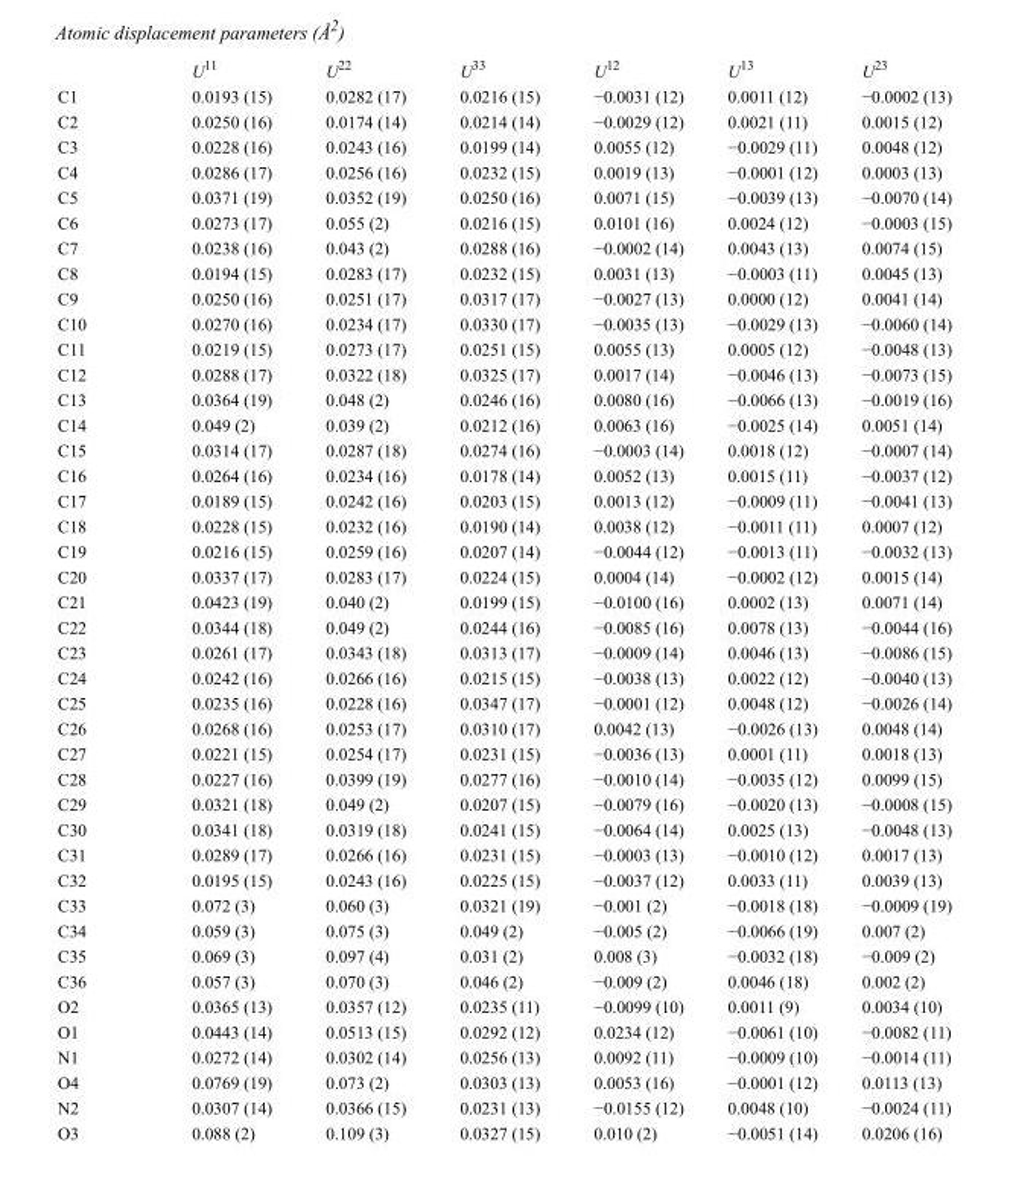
<table><thead><tr><td></td><td>U<sup>11</sup></td><td>U<sup>22</sup></td><td>U<sup>33</sup></td><td>U<sup>12</sup></td><td>U<sup>13</sup></td><td>U<sup>23</sup></td></tr></thead><tbody><tr><td>C1</td><td>0.0193 (15)</td><td>0.0282 (17)</td><td>0.0216 (15)</td><td>−0.0031 (12)</td><td>0.0011 (12)</td><td>−0.0002 (13)</td></tr><tr><td>C2</td><td>0.0250 (16)</td><td>0.0174 (14)</td><td>0.0214 (14)</td><td>−0.0029 (12)</td><td>0.0021 (11)</td><td>0.0015 (12)</td></tr><tr><td>C3</td><td>0.0228 (16)</td><td>0.0243 (16)</td><td>0.0199 (14)</td><td>0.0055 (12)</td><td>−0.0029 (11)</td><td>0.0048 (12)</td></tr><tr><td>C4</td><td>0.0286 (17)</td><td>0.0256 (16)</td><td>0.0232 (15)</td><td>0.0019 (13)</td><td>−0.0001 (12)</td><td>0.0003 (13)</td></tr><tr><td>C5</td><td>0.0371 (19)</td><td>0.0352 (19)</td><td>0.0250 (16)</td><td>0.0071 (15)</td><td>−0.0039 (13)</td><td>−0.0070 (14)</td></tr><tr><td>C6</td><td>0.0273 (17)</td><td>0.055 (2)</td><td>0.0216 (15)</td><td>0.0101 (16)</td><td>0.0024 (12)</td><td>−0.0003 (15)</td></tr><tr><td>C7</td><td>0.0238 (16)</td><td>0.043 (2)</td><td>0.0288 (16)</td><td>−0.0002 (14)</td><td>0.0043 (13)</td><td>0.0074 (15)</td></tr><tr><td>C8</td><td>0.0194 (15)</td><td>0.0283 (17)</td><td>0.0232 (15)</td><td>0.0031 (13)</td><td>−0.0003 (11)</td><td>0.0045 (13)</td></tr><tr><td>C9</td><td>0.0250 (16)</td><td>0.0251 (17)</td><td>0.0317 (17)</td><td>−0.0027 (13)</td><td>0.0000 (12)</td><td>0.0041 (14)</td></tr><tr><td>C10</td><td>0.0270 (16)</td><td>0.0234 (17)</td><td>0.0330 (17)</td><td>−0.0035 (13)</td><td>−0.0029 (13)</td><td>−0.0060 (14)</td></tr><tr><td>C11</td><td>0.0219 (15)</td><td>0.0273 (17)</td><td>0.0251 (15)</td><td>0.0055 (13)</td><td>0.0005 (12)</td><td>−0.0048 (13)</td></tr><tr><td>C12</td><td>0.0288 (17)</td><td>0.0322 (18)</td><td>0.0325 (17)</td><td>0.0017 (14)</td><td>−0.0046 (13)</td><td>−0.0073 (15)</td></tr><tr><td>C13</td><td>0.0364 (19)</td><td>0.048 (2)</td><td>0.0246 (16)</td><td>0.0080 (16)</td><td>−0.0066 (13)</td><td>−0.0019 (16)</td></tr><tr><td>C14</td><td>0.049 (2)</td><td>0.039 (2)</td><td>0.0212 (16)</td><td>0.0063 (16)</td><td>−0.0025 (14)</td><td>0.0051 (14)</td></tr><tr><td>C15</td><td>0.0314 (17)</td><td>0.0287 (18)</td><td>0.0274 (16)</td><td>−0.0003 (14)</td><td>0.0018 (12)</td><td>−0.0007 (14)</td></tr><tr><td>C16</td><td>0.0264 (16)</td><td>0.0234 (16)</td><td>0.0178 (14)</td><td>0.0052 (13)</td><td>0.0015 (11)</td><td>−0.0037 (12)</td></tr><tr><td>C17</td><td>0.0189 (15)</td><td>0.0242 (16)</td><td>0.0203 (15)</td><td>0.0013 (12)</td><td>−0.0009 (11)</td><td>−0.0041 (13)</td></tr><tr><td>C18</td><td>0.0228 (15)</td><td>0.0232 (16)</td><td>0.0190 (14)</td><td>0.0038 (12)</td><td>−0.0011 (11)</td><td>0.0007 (12)</td></tr><tr><td>C19</td><td>0.0216 (15)</td><td>0.0259 (16)</td><td>0.0207 (14)</td><td>−0.0044 (12)</td><td>−0.0013 (11)</td><td>−0.0032 (13)</td></tr><tr><td>C20</td><td>0.0337 (17)</td><td>0.0283 (17)</td><td>0.0224 (15)</td><td>0.0004 (14)</td><td>−0.0002 (12)</td><td>0.0015 (14)</td></tr><tr><td>C21</td><td>0.0423 (19)</td><td>0.040 (2)</td><td>0.0199 (15)</td><td>−0.0100 (16)</td><td>0.0002 (13)</td><td>0.0071 (14)</td></tr><tr><td>C22</td><td>0.0344 (18)</td><td>0.049 (2)</td><td>0.0244 (16)</td><td>−0.0085 (16)</td><td>0.0078 (13)</td><td>−0.0044 (16)</td></tr><tr><td>C23</td><td>0.0261 (17)</td><td>0.0343 (18)</td><td>0.0313 (17)</td><td>−0.0009 (14)</td><td>0.0046 (13)</td><td>−0.0086 (15)</td></tr><tr><td>C24</td><td>0.0242 (16)</td><td>0.0266 (16)</td><td>0.0215 (15)</td><td>−0.0038 (13)</td><td>0.0022 (12)</td><td>−0.0040 (13)</td></tr><tr><td>C25</td><td>0.0235 (16)</td><td>0.0228 (16)</td><td>0.0347 (17)</td><td>−0.0001 (12)</td><td>0.0048 (12)</td><td>−0.0026 (14)</td></tr><tr><td>C26</td><td>0.0268 (16)</td><td>0.0253 (17)</td><td>0.0310 (17)</td><td>0.0042 (13)</td><td>−0.0026 (13)</td><td>0.0048 (14)</td></tr><tr><td>C27</td><td>0.0221 (15)</td><td>0.0254 (17)</td><td>0.0231 (15)</td><td>−0.0036 (13)</td><td>0.0001 (11)</td><td>0.0018 (13)</td></tr><tr><td>C28</td><td>0.0227 (16)</td><td>0.0399 (19)</td><td>0.0277 (16)</td><td>−0.0010 (14)</td><td>−0.0035 (12)</td><td>0.0099 (15)</td></tr><tr><td>C29</td><td>0.0321 (18)</td><td>0.049 (2)</td><td>0.0207 (15)</td><td>−0.0079 (16)</td><td>−0.0020 (13)</td><td>−0.0008 (15)</td></tr><tr><td>C30</td><td>0.0341 (18)</td><td>0.0319 (18)</td><td>0.0241 (15)</td><td>−0.0064 (14)</td><td>0.0025 (13)</td><td>−0.0048 (13)</td></tr><tr><td>C31</td><td>0.0289 (17)</td><td>0.0266 (16)</td><td>0.0231 (15)</td><td>−0.0003 (13)</td><td>−0.0010 (12)</td><td>0.0017 (13)</td></tr><tr><td>C32</td><td>0.0195 (15)</td><td>0.0243 (16)</td><td>0.0225 (15)</td><td>−0.0037 (12)</td><td>0.0033 (11)</td><td>0.0039 (13)</td></tr><tr><td>C33</td><td>0.072 (3)</td><td>0.060 (3)</td><td>0.0321 (19)</td><td>−0.001 (2)</td><td>−0.0018 (18)</td><td>−0.0009 (19)</td></tr><tr><td>C34</td><td>0.059 (3)</td><td>0.075 (3)</td><td>0.049 (2)</td><td>−0.005 (2)</td><td>−0.0066 (19)</td><td>0.007 (2)</td></tr><tr><td>C35</td><td>0.069 (3)</td><td>0.097 (4)</td><td>0.031 (2)</td><td>0.008 (3)</td><td>−0.0032 (18)</td><td>−0.009 (2)</td></tr><tr><td>C36</td><td>0.057 (3)</td><td>0.070 (3)</td><td>0.046 (2)</td><td>−0.009 (2)</td><td>0.0046 (18)</td><td>0.002 (2)</td></tr><tr><td>O2</td><td>0.0365 (13)</td><td>0.0357 (12)</td><td>0.0235 (11)</td><td>−0.0099 (10)</td><td>0.0011 (9)</td><td>0.0034 (10)</td></tr><tr><td>O1</td><td>0.0443 (14)</td><td>0.0513 (15)</td><td>0.0292 (12)</td><td>0.0234 (12)</td><td>−0.0061 (10)</td><td>−0.0082 (11)</td></tr><tr><td>N1</td><td>0.0272 (14)</td><td>0.0302 (14)</td><td>0.0256 (13)</td><td>0.0092 (11)</td><td>−0.0009 (10)</td><td>−0.0014 (11)</td></tr><tr><td>O4</td><td>0.0769 (19)</td><td>0.073 (2)</td><td>0.0303 (13)</td><td>0.0053 (16)</td><td>−0.0001 (12)</td><td>0.0113 (13)</td></tr><tr><td>N2</td><td>0.0307 (14)</td><td>0.0366 (15)</td><td>0.0231 (13)</td><td>−0.0155 (12)</td><td>0.0048 (10)</td><td>−0.0024 (11)</td></tr><tr><td>O3</td><td>0.088 (2)</td><td>0.109 (3)</td><td>0.0327 (15)</td><td>0.010 (2)</td><td>−0.0051 (14)</td><td>0.0206 (16)</td></tr></tbody></table>